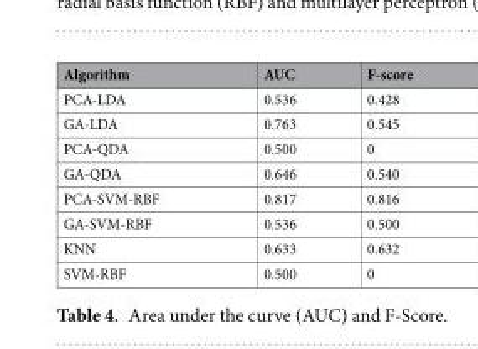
<table><thead><tr><td>Algorithm</td><td>AUC</td><td>F-score</td></tr></thead><tbody><tr><td>PCA-LDA</td><td>0.536</td><td>0.428</td></tr><tr><td>GA-LDA</td><td>0.763</td><td>0.545</td></tr><tr><td>PCA-QDA</td><td>0.500</td><td>0</td></tr><tr><td>GA-QDA</td><td>0.646</td><td>0.540</td></tr><tr><td>PCA-SVM-RBF</td><td>0.817</td><td>0.816</td></tr><tr><td>GA-SVM-RBF</td><td>0.536</td><td>0.500</td></tr><tr><td>KNN</td><td>0.633</td><td>0.632</td></tr><tr><td>SVM-RBF</td><td>0.500</td><td>0</td></tr></tbody></table>